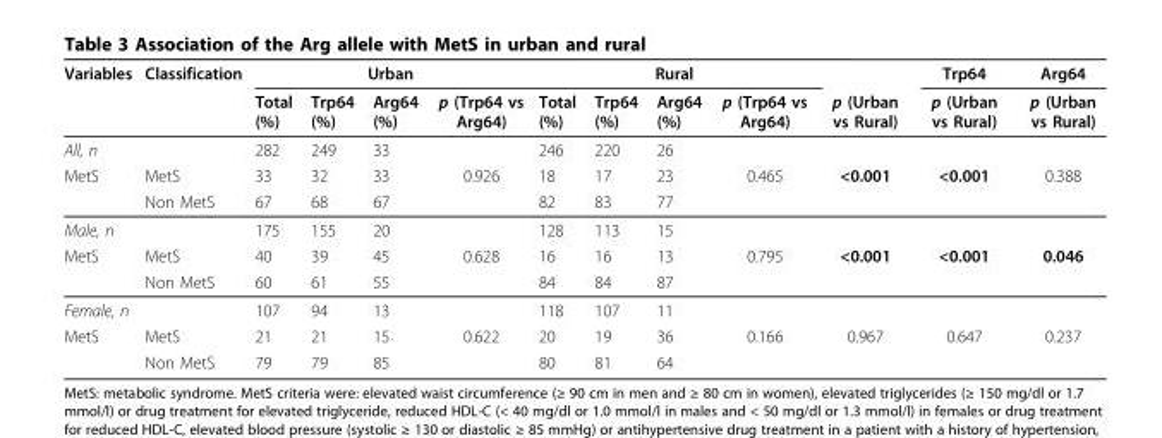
<table><thead><tr><td rowspan="2">Variables</td><td rowspan="2">Classification</td><td colspan="4">Urban</td><td colspan="4">Rural</td><td rowspan="2">p (Urban vs Rural)</td><td rowspan="2">Trp64 p (Urban vs Rural)</td><td rowspan="2">Arg64 p (Urban vs Rural)</td></tr><tr><td>Total (%)</td><td>Trp64 (%)</td><td>Arg64 (%)</td><td>p (Trp64 vs Arg64)</td><td>Total (%)</td><td>Trp64 (%)</td><td>Arg64 (%)</td><td>p (Trp64 vs Arg64)</td></tr></thead><tbody><tr><td>All, n</td><td></td><td>282</td><td>249</td><td>33</td><td></td><td>246</td><td>220</td><td>26</td><td></td><td></td><td></td><td></td></tr><tr><td rowspan="2">MetS</td><td>MetS</td><td>33</td><td>32</td><td>33</td><td>0.926</td><td>18</td><td>17</td><td>23</td><td>0.465</td><td>&lt;0.001</td><td>&lt;0.001</td><td>0.388</td></tr><tr><td>Non MetS</td><td>67</td><td>68</td><td>67</td><td></td><td>82</td><td>83</td><td>77</td><td></td><td></td><td></td><td></td></tr><tr><td>Male, n</td><td></td><td>175</td><td>155</td><td>20</td><td></td><td>128</td><td>113</td><td>15</td><td></td><td></td><td></td><td></td></tr><tr><td rowspan="2">MetS</td><td>MetS</td><td>40</td><td>39</td><td>45</td><td>0.628</td><td>16</td><td>16</td><td>13</td><td>0.795</td><td>&lt;0.001</td><td>&lt;0.001</td><td>0.046</td></tr><tr><td>Non MetS</td><td>60</td><td>61</td><td>55</td><td></td><td>84</td><td>84</td><td>87</td><td></td><td></td><td></td><td></td></tr><tr><td>Female, n</td><td></td><td>107</td><td>94</td><td>13</td><td></td><td>118</td><td>107</td><td>11</td><td></td><td></td><td></td><td></td></tr><tr><td rowspan="2">MetS</td><td>MetS</td><td>21</td><td>21</td><td>15</td><td>0.622</td><td>20</td><td>19</td><td>36</td><td>0.166</td><td>0.967</td><td>0.647</td><td>0.237</td></tr><tr><td>Non MetS</td><td>79</td><td>79</td><td>85</td><td></td><td>80</td><td>81</td><td>64</td><td></td><td></td><td></td><td></td></tr></tbody></table>